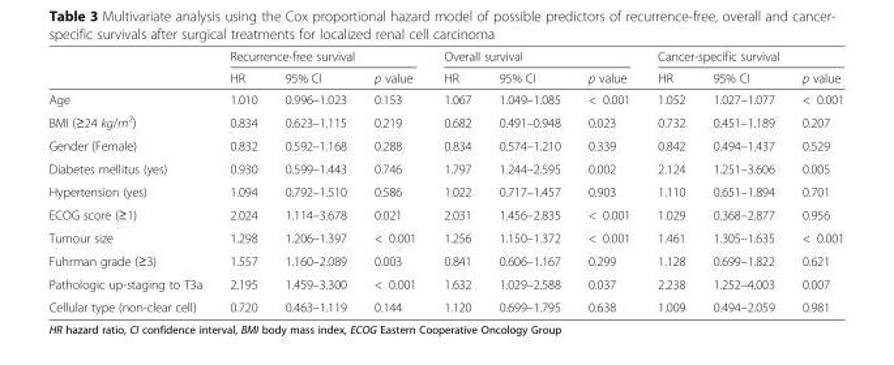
<table><thead><tr><td rowspan="2"></td><td colspan="3">Recurrence-free survival</td><td colspan="3">Overall survival</td><td colspan="3">Cancer-specific survival</td></tr><tr><td>HR</td><td>95% CI</td><td>p value</td><td>HR</td><td>95% CI</td><td>p value</td><td>HR</td><td>95% CI</td><td>p value</td></tr></thead><tbody><tr><td>Age</td><td>1.010</td><td>0.996–1.023</td><td>0.153</td><td>1.067</td><td>1.049–1.085</td><td>&lt; 0.001</td><td>1.052</td><td>1.027–1.077</td><td>&lt; 0.001</td></tr><tr><td>BMI (≥24 kg/m<sup>2</sup>)</td><td>0.834</td><td>0.623–1.115</td><td>0.219</td><td>0.682</td><td>0.491–0.948</td><td>0.023</td><td>0.732</td><td>0.451–1.189</td><td>0.207</td></tr><tr><td>Gender (Female)</td><td>0.832</td><td>0.592–1.168</td><td>0.288</td><td>0.834</td><td>0.574–1.210</td><td>0.339</td><td>0.842</td><td>0.494–1.437</td><td>0.529</td></tr><tr><td>Diabetes mellitus (yes)</td><td>0.930</td><td>0.599–1.443</td><td>0.746</td><td>1.797</td><td>1.244–2.595</td><td>0.002</td><td>2.124</td><td>1.251–3.606</td><td>0.005</td></tr><tr><td>Hypertension (yes)</td><td>1.094</td><td>0.792–1.510</td><td>0.586</td><td>1.022</td><td>0.717–1.457</td><td>0.903</td><td>1.110</td><td>0.651–1.894</td><td>0.701</td></tr><tr><td>ECOG score (≥1)</td><td>2.024</td><td>1.114–3.678</td><td>0.021</td><td>2.031</td><td>1.456–2.835</td><td>&lt; 0.001</td><td>1.029</td><td>0.368–2.877</td><td>0.956</td></tr><tr><td>Tumour size</td><td>1.298</td><td>1.206–1.397</td><td>&lt; 0.001</td><td>1.256</td><td>1.150–1.372</td><td>&lt; 0.001</td><td>1.461</td><td>1.305–1.635</td><td>&lt; 0.001</td></tr><tr><td>Fuhrman grade (≥3)</td><td>1.557</td><td>1.160–2.089</td><td>0.003</td><td>0.841</td><td>0.606–1.167</td><td>0.299</td><td>1.128</td><td>0.699–1.822</td><td>0.621</td></tr><tr><td>Pathologic up-staging to T3a</td><td>2.195</td><td>1.459–3.300</td><td>&lt; 0.001</td><td>1.632</td><td>1.029–2.588</td><td>0.037</td><td>2.238</td><td>1.252–4.003</td><td>0.007</td></tr><tr><td>Cellular type (non-clear cell)</td><td>0.720</td><td>0.463–1.119</td><td>0.144</td><td>1.120</td><td>0.699–1.795</td><td>0.638</td><td>1.009</td><td>0.494–2.059</td><td>0.981</td></tr></tbody></table>